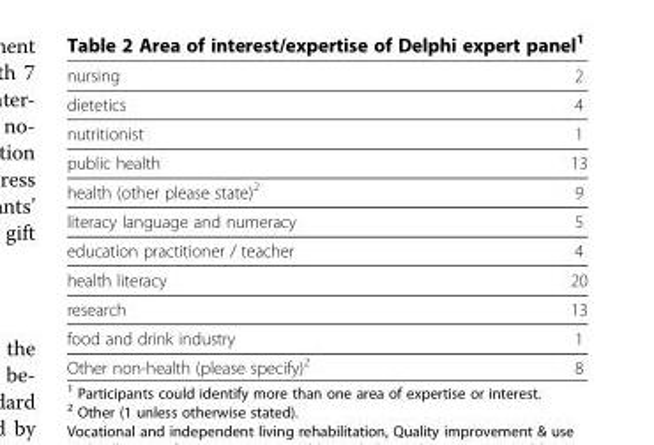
<table><thead><tr><td>nursing</td><td>2</td></tr></thead><tbody><tr><td>dietetics</td><td>4</td></tr><tr><td>nutritionist</td><td>1</td></tr><tr><td>public health</td><td>13</td></tr><tr><td>health (other please state)<sup>2</sup></td><td>9</td></tr><tr><td>literacy language and numeracy</td><td>5</td></tr><tr><td>education practitioner / teacher</td><td>4</td></tr><tr><td>health literacy</td><td>20</td></tr><tr><td>research</td><td>13</td></tr><tr><td>food and drink industry</td><td>1</td></tr><tr><td>Other non-health (please specify)<sup>2</sup></td><td>8</td></tr></tbody></table>